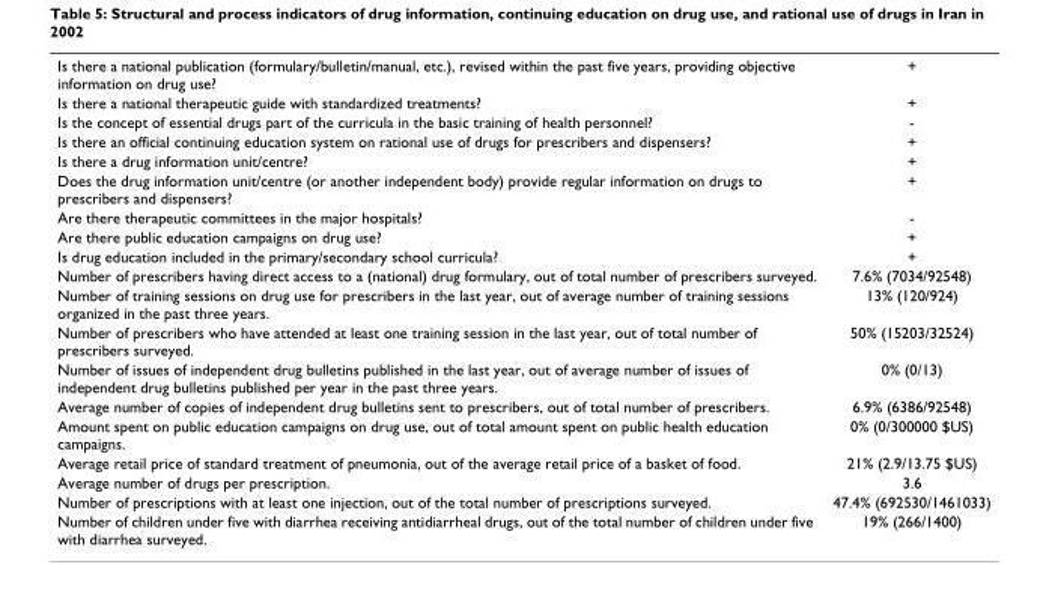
<table><tbody><tr><td>Is there a national publication (formulary/bulletin/manual, etc.), revised within the past five years, providing objective information on drug use?</td><td>+</td></tr><tr><td>Is there a national therapeutic guide with standardized treatments?</td><td>+</td></tr><tr><td>Is the concept of essential drugs part of the curricula in the basic training of health personnel?</td><td>-</td></tr><tr><td>Is there an official continuing education system on rational use of drugs for prescribers and dispensers?</td><td>+</td></tr><tr><td>Is there a drug information unit/centre?</td><td>+</td></tr><tr><td>Does the drug information unit/centre (or another independent body) provide regular information on drugs to prescribers and dispensers?</td><td>+</td></tr><tr><td>Are there therapeutic committees in the major hospitals?</td><td>-</td></tr><tr><td>Are there public education campaigns on drug use?</td><td>+</td></tr><tr><td>Is drug education included in the primary/secondary school curricula?</td><td>+</td></tr><tr><td>Number of prescribers having direct access to a (national) drug formulary, out of total number of prescribers surveyed.</td><td>7.6% (7034/92548)</td></tr><tr><td>Number of training sessions on drug use for prescribers in the last year, out of average number of training sessions organized in the past three years.</td><td>13% (120/924)</td></tr><tr><td>Number of prescribers who have attended at least one training session in the last year, out of total number of prescribers surveyed.</td><td>50% (15203/32524)</td></tr><tr><td>Number of issues of independent drug bulletins published in the last year, out of average number of issues of independent drug bulletins published per year in the past three years.</td><td>0% (0/13)</td></tr><tr><td>Average number of copies of independent drug bulletins sent to prescribers, out of total number of prescribers.</td><td>6.9% (6386/92548)</td></tr><tr><td>Amount spent on public education campaigns on drug use, out of total amount spent on public health education campaigns.</td><td>0% (0/300000 $US)</td></tr><tr><td>Average retail price of standard treatment of pneumonia, out of the average retail price of a basket of food.</td><td>21% (2.9/13.75 $US)</td></tr><tr><td>Average number of drugs per prescription.</td><td>3.6</td></tr><tr><td>Number of prescriptions with at least one injection, out of the total number of prescriptions surveyed.</td><td>47.4% (692530/1461033)</td></tr><tr><td>Number of children under five with diarrhea receiving antidiarrheal drugs, out of the total number of children under five with diarrhea surveyed.</td><td>19% (266/1400)</td></tr></tbody></table>